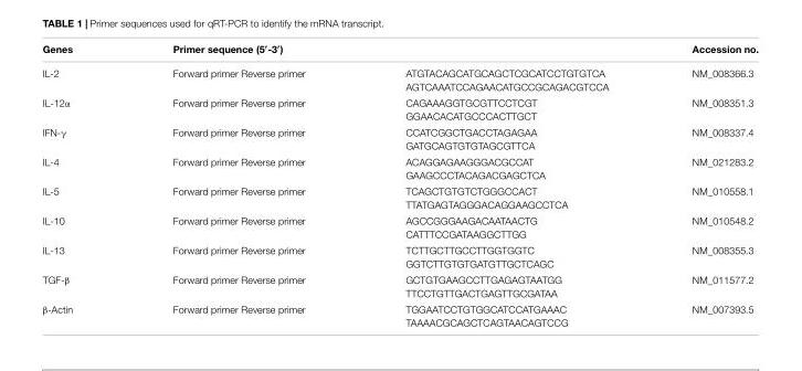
<table><thead><tr><td>Genes</td><td>Primer sequence (5′-3′)</td><td></td><td>Accession no.</td></tr></thead><tbody><tr><td>IL-2</td><td>Forward primer Reverse primer</td><td>ATGTACAGCATGCAGCTCGCATCCTGTGTCA AGTCAAATCCAGAACATGCCGCAGACGTCCA</td><td>NM_008366.3</td></tr><tr><td>IL-12α</td><td>Forward primer Reverse primer</td><td>CAGAAAGGTGCGTTCCTCGT GGAACACATGCCCACTTGCT</td><td>NM_008351.3</td></tr><tr><td>IFN-γ</td><td>Forward primer Reverse primer</td><td>CCATCGGCTGACCTAGAGAA GATGCAGTGTGTAGCGTTCA</td><td>NM_008337.4</td></tr><tr><td>IL-4</td><td>Forward primer Reverse primer</td><td>ACAGGAGAAGGGACGCCAT GAAGCCCTACAGACGAGCTCA</td><td>NM_021283.2</td></tr><tr><td>IL-5</td><td>Forward primer Reverse primer</td><td>TCAGCTGTGTCTGGGCCACT TTATGAGTAGGGACAGGAAGCCTCA</td><td>NM_010558.1</td></tr><tr><td>IL-10</td><td>Forward primer Reverse primer</td><td>AGCCGGGAAGACAATAACTG CATTTCCGATAAGGCTTGG</td><td>NM_010548.2</td></tr><tr><td>IL-13</td><td>Forward primer Reverse primer</td><td>TCTTGCTTGCCTTGGTGGTC GGTCTTGTGTGATGTTGCTCAGC</td><td>NM_008355.3</td></tr><tr><td>TGF-β</td><td>Forward primer Reverse primer</td><td>GCTGTGAAGCCTTGAGAGTAATGG TTCCTGTTGACTGAGTTGCGATAA</td><td>NM_011577.2</td></tr><tr><td>β-Actin</td><td>Forward primer Reverse primer</td><td>TGGAATCCTGTGGCATCCATGAAAC TAAAACGCAGCTCAGTAACAGTCCG</td><td>NM_007393.5</td></tr></tbody></table>